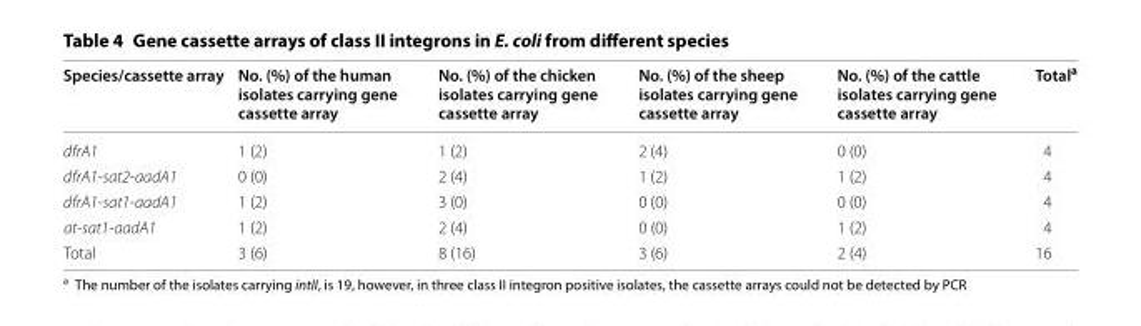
<table><thead><tr><td>Species/cassette array</td><td>No. (%) of the human isolates carrying gene cassette array</td><td>No. (%) of the chicken isolates carrying gene cassette array</td><td>No. (%) of the sheep isolates carrying gene cassette array</td><td>No. (%) of the cattle isolates carrying gene cassette array</td><td>Total<sup>a</sup></td></tr></thead><tbody><tr><td>dfrA1</td><td>1 (2)</td><td>1 (2)</td><td>2 (4)</td><td>0 (0)</td><td>4</td></tr><tr><td>dfrA1-sat2-aadA1</td><td>0 (0)</td><td>2 (4)</td><td>1 (2)</td><td>1 (2)</td><td>4</td></tr><tr><td>dfrA1-sat1-aadA1</td><td>1 (2)</td><td>3 (0)</td><td>0 (0)</td><td>0 (0)</td><td>4</td></tr><tr><td>at-sat1-aadA1</td><td>1 (2)</td><td>2 (4)</td><td>0 (0)</td><td>1 (2)</td><td>4</td></tr><tr><td>Total</td><td>3 (6)</td><td>8 (16)</td><td>3 (6)</td><td>2 (4)</td><td>16</td></tr></tbody></table>